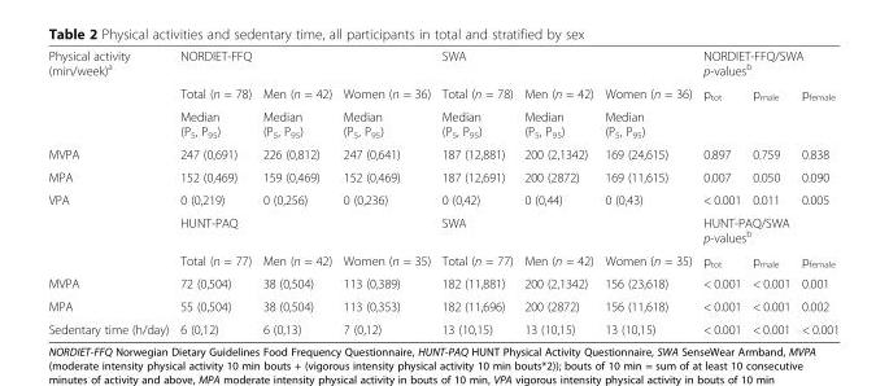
<table><tbody><tr><td rowspan="3">Physical activity (min/week)<sup>a</sup></td><td colspan="3">NORDIET-FFQ</td><td colspan="3">SWA</td><td colspan="3">NORDIET-FFQ/SWA p-values<sup>b</sup></td></tr><tr><td>Total (n = 78)</td><td>Men (n = 42)</td><td>Women (n = 36)</td><td>Total (n = 78)</td><td>Men (n = 42)</td><td>Women (n = 36)</td><td>p<sub>tot</sub></td><td>p<sub>male</sub></td><td>p<sub>female</sub></td></tr><tr><td>Median (P<sub>5</sub>, P<sub>95</sub>)</td><td>Median (P<sub>5</sub>, P<sub>95</sub>)</td><td>Median (P<sub>5</sub>, P<sub>95</sub>)</td><td>Median (P<sub>5</sub>, P<sub>95</sub>)</td><td>Median (P<sub>5</sub>, P<sub>95</sub>)</td><td>Median (P<sub>5</sub>, P<sub>95</sub>)</td><td></td><td></td><td></td></tr><tr><td>MVPA</td><td>247 (0,691)</td><td>226 (0,812)</td><td>247 (0,641)</td><td>187 (12,881)</td><td>200 (2,1342)</td><td>169 (24,615)</td><td>0.897</td><td>0.759</td><td>0.838</td></tr><tr><td>MPA</td><td>152 (0,469)</td><td>159 (0,469)</td><td>152 (0,469)</td><td>187 (12,691)</td><td>200 (2872)</td><td>169 (11,615)</td><td>0.007</td><td>0.050</td><td>0.090</td></tr><tr><td rowspan="3">VPA</td><td>0 (0,219)</td><td>0 (0,256)</td><td>0 (0,236)</td><td>0 (0,42)</td><td>0 (0,44)</td><td>0 (0,43)</td><td>&lt; 0.001</td><td>0.011</td><td>0.005</td></tr><tr><td colspan="3">HUNT-PAQ</td><td colspan="3">SWA</td><td colspan="3">HUNT-PAQ/SWA p-values<sup>b</sup></td></tr><tr><td>Total (n = 77)</td><td>Men (n = 42)</td><td>Women (n = 35)</td><td>Total (n = 77)</td><td>Men (n = 42)</td><td>Women (n = 35)</td><td>p<sub>tot</sub></td><td>p<sub>male</sub></td><td>p<sub>female</sub></td></tr><tr><td>MVPA</td><td>72 (0,504)</td><td>38 (0,504)</td><td>113 (0,389)</td><td>182 (11,881)</td><td>200 (2,1342)</td><td>156 (23,618)</td><td>&lt; 0.001</td><td>&lt; 0.001</td><td>0.001</td></tr><tr><td>MPA</td><td>55 (0,504)</td><td>38 (0,504)</td><td>113 (0,353)</td><td>182 (11,696)</td><td>200 (2872)</td><td>156 (11,618)</td><td>&lt; 0.001</td><td>&lt; 0.001</td><td>0.002</td></tr><tr><td>Sedentary time (h/day)</td><td>6 (0,12)</td><td>6 (0,13)</td><td>7 (0,12)</td><td>13 (10,15)</td><td>13 (10,15)</td><td>13 (10,15)</td><td>&lt; 0.001</td><td>&lt; 0.001</td><td>&lt; 0.001</td></tr></tbody></table>